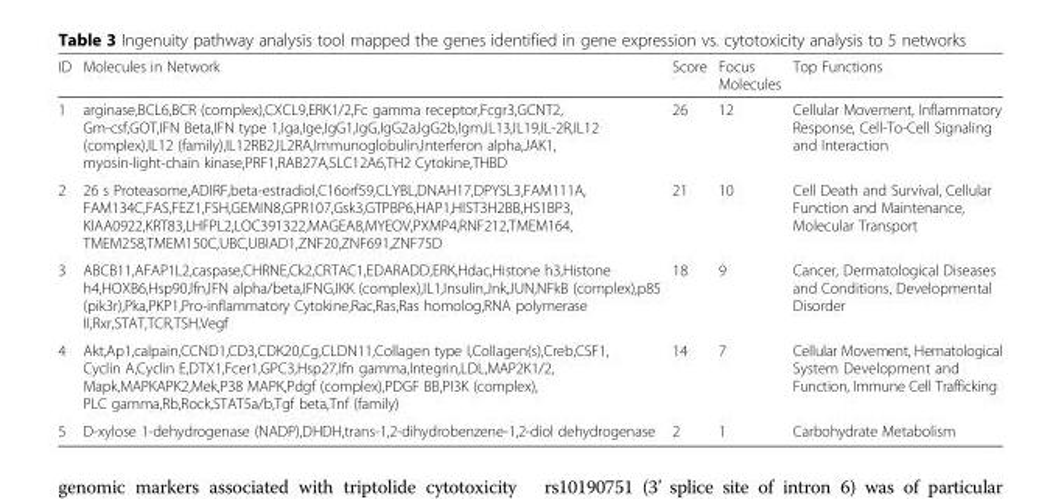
<table><thead><tr><td>ID</td><td>Molecules in Network</td><td>Score</td><td>Focus Molecules</td><td>Top Functions</td></tr></thead><tbody><tr><td>1</td><td>arginase,BCL6,BCR (complex),CXCL9,ERK1/2,Fc gamma receptor,Fcgr3,GCNT2, Gm-csf,GOT,IFN Beta,IFN type 1,Iga,Ige,IgG1,IgG,IgG2a,IgG2b,Igm,IL13,IL19,IL-2R,IL12 (complex),IL12 (family),IL12RB2,IL2RA,Immunoglobulin,Interferon alpha,JAK1, myosin-light-chain kinase,PRF1,RAB27A,SLC12A6,TH2 Cytokine,THBD</td><td>26</td><td>12</td><td>Cellular Movement, Inflammatory Response, Cell-To-Cell Signaling and Interaction</td></tr><tr><td>2</td><td>26 s Proteasome,ADIRF,beta-estradiol,C16orf59,CLYBL,DNAH17,DPYSL3,FAM111A, FAM134C,FAS,FEZ1,FSH,GEMIN8,GPR107,Gsk3,GTPBP6,HAP1,HIST3H2BB,HS1BP3, KIAA0922,KRT83,LHFPL2,LOC391322,MAGEA8,MYEOV,PXMP4,RNF212,TMEM164, TMEM258,TMEM150C,UBC,UBIAD1,ZNF20,ZNF691,ZNF75D</td><td>21</td><td>10</td><td>Cell Death and Survival, Cellular Function and Maintenance, Molecular Transport</td></tr><tr><td>3</td><td>ABCB11,AFAP1L2,caspase,CHRNE,Ck2,CRTAC1,EDARADD,ERK,Hdac,Histone h3,Histone h4,HOXB6,Hsp90,Ifn,IFN alpha/beta,IFNG,IKK (complex),IL1,Insulin,Jnk,JUN,NFkB (complex),p85 (pik3r),Pka,PKP1,Pro-inflammatory Cytokine,Rac,Ras,Ras homolog,RNA polymerase II,Rxr,STAT,TCR,TSH,Vegf</td><td>18</td><td>9</td><td>Cancer, Dermatological Diseases and Conditions, Developmental Disorder</td></tr><tr><td>4</td><td>Akt,Ap1,calpain,CCND1,CD3,CDK20,Cg,CLDN11,Collagen type I,Collagen(s),Creb,CSF1, Cyclin A,Cyclin E,DTX1,Fcer1,GPC3,Hsp27,Ifn gamma,Integrin,LDL,MAP2K1/2, Mapk,MAPKAPK2,Mek,P38 MAPK,Pdgf (complex),PDGF BB,PI3K (complex), PLC gamma,Rb,Rock,STAT5a/b,Tgf beta,Tnf (family)</td><td>14</td><td>7</td><td>Cellular Movement, Hematological System Development and Function, Immune Cell Trafficking</td></tr><tr><td>5</td><td>D-xylose 1-dehydrogenase (NADP),DHDH,trans-1,2-dihydrobenzene-1,2-diol dehydrogenase</td><td>2</td><td>1</td><td>Carbohydrate Metabolism</td></tr></tbody></table>